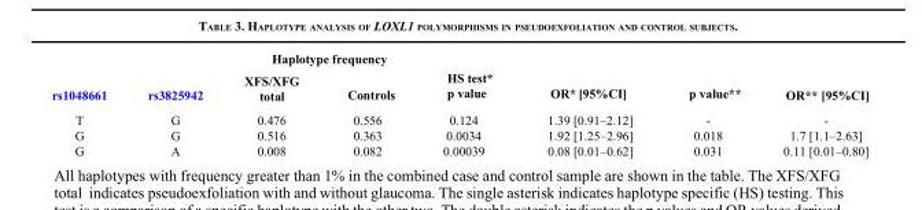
<table><thead><tr><td rowspan="2">rs1048661</td><td rowspan="2">rs3825942</td><td colspan="2">Haplotype frequency</td><td rowspan="2">HS test* p value</td><td rowspan="2">OR* [95%CI]</td><td rowspan="2">p value**</td><td rowspan="2">OR** [95%CI]</td></tr><tr><td>XFS/XFG total</td><td>Controls</td></tr></thead><tbody><tr><td>T</td><td>G</td><td>0.476</td><td>0.556</td><td>0.124</td><td>1.39 [0.91–2.12]</td><td>-</td><td>-</td></tr><tr><td>G</td><td>G</td><td>0.516</td><td>0.363</td><td>0.0034</td><td>1.92 [1.25–2.96]</td><td>0.018</td><td>1.7 [1.1–2.63]</td></tr><tr><td>G</td><td>A</td><td>0.008</td><td>0.082</td><td>0.00039</td><td>0.08 [0.01–0.62]</td><td>0.031</td><td>0.11 [0.01–0.80]</td></tr></tbody></table>